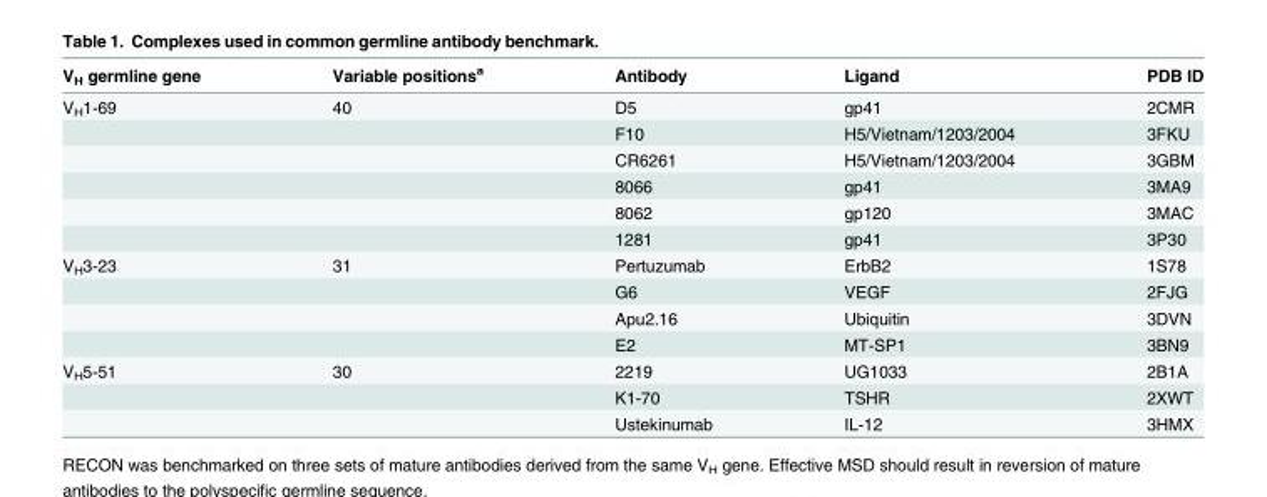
<table><thead><tr><td>V<sub>H</sub> germline gene</td><td>Variable positions<sup>a</sup></td><td>Antibody</td><td>Ligand</td><td>PDB ID</td></tr></thead><tbody><tr><td rowspan="6">V<sub>H</sub>1-69</td><td>40</td><td>D5</td><td>gp41</td><td>2CMR</td></tr><tr><td></td><td>F10</td><td>H5/Vietnam/1203/2004</td><td>3FKU</td></tr><tr><td></td><td>CR6261</td><td>H5/Vietnam/1203/2004</td><td>3GBM</td></tr><tr><td></td><td>8066</td><td>gp41</td><td>3MA9</td></tr><tr><td></td><td>8062</td><td>gp120</td><td>3MAC</td></tr><tr><td></td><td>1281</td><td>gp41</td><td>3P30</td></tr><tr><td rowspan="4">V<sub>H</sub>3-23</td><td>31</td><td>Pertuzumab</td><td>ErbB2</td><td>1S78</td></tr><tr><td></td><td>G6</td><td>VEGF</td><td>2FJG</td></tr><tr><td></td><td>Apu2.16</td><td>Ubiquitin</td><td>3DVN</td></tr><tr><td></td><td>E2</td><td>MT-SP1</td><td>3BN9</td></tr><tr><td rowspan="3">V<sub>H</sub>5-51</td><td>30</td><td>2219</td><td>UG1033</td><td>2B1A</td></tr><tr><td></td><td>K1-70</td><td>TSHR</td><td>2XWT</td></tr><tr><td></td><td>Ustekinumab</td><td>IL-12</td><td>3HMX</td></tr></tbody></table>